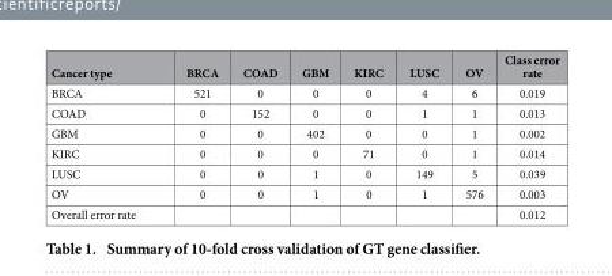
<table><thead><tr><td>Cancer type</td><td>BRCA</td><td>COAD</td><td>GBM</td><td>KIRC</td><td>LUSC</td><td>OV</td><td>Class error rate</td></tr></thead><tbody><tr><td>BRCA</td><td>521</td><td>0</td><td>0</td><td>0</td><td>4</td><td>6</td><td>0.019</td></tr><tr><td>COAD</td><td>0</td><td>152</td><td>0</td><td>0</td><td>1</td><td>1</td><td>0.013</td></tr><tr><td>GBM</td><td>0</td><td>0</td><td>402</td><td>0</td><td>0</td><td>1</td><td>0.002</td></tr><tr><td>KIRC</td><td>0</td><td>0</td><td>0</td><td>71</td><td>0</td><td>1</td><td>0.014</td></tr><tr><td>LUSC</td><td>0</td><td>0</td><td>1</td><td>0</td><td>149</td><td>5</td><td>0.039</td></tr><tr><td>OV</td><td>0</td><td>0</td><td>1</td><td>0</td><td>1</td><td>576</td><td>0.003</td></tr><tr><td>Overall error rate</td><td></td><td></td><td></td><td></td><td></td><td></td><td>0.012</td></tr></tbody></table>